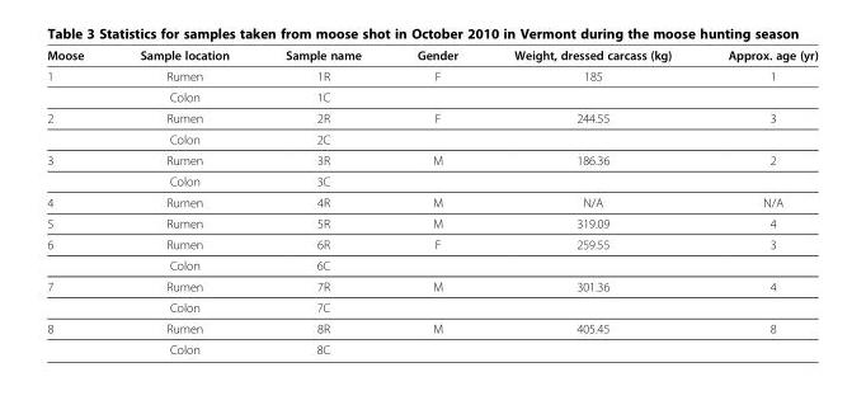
<table><thead><tr><td>Moose</td><td>Sample location</td><td>Sample name</td><td>Gender</td><td>Weight, dressed carcass (kg)</td><td>Approx. age (yr)</td></tr></thead><tbody><tr><td rowspan="2">1</td><td>Rumen</td><td>1R</td><td>F</td><td>185</td><td>1</td></tr><tr><td>Colon</td><td>1C</td><td></td><td></td><td></td></tr><tr><td rowspan="2">2</td><td>Rumen</td><td>2R</td><td>F</td><td>244.55</td><td>3</td></tr><tr><td>Colon</td><td>2C</td><td></td><td></td><td></td></tr><tr><td rowspan="2">3</td><td>Rumen</td><td>3R</td><td>M</td><td>186.36</td><td>2</td></tr><tr><td>Colon</td><td>3C</td><td></td><td></td><td></td></tr><tr><td>4</td><td>Rumen</td><td>4R</td><td>M</td><td>N/A</td><td>N/A</td></tr><tr><td>5</td><td>Rumen</td><td>5R</td><td>M</td><td>319.09</td><td>4</td></tr><tr><td rowspan="2">6</td><td>Rumen</td><td>6R</td><td>F</td><td>259.55</td><td>3</td></tr><tr><td>Colon</td><td>6C</td><td></td><td></td><td></td></tr><tr><td rowspan="2">7</td><td>Rumen</td><td>7R</td><td>M</td><td>301.36</td><td>4</td></tr><tr><td>Colon</td><td>7C</td><td></td><td></td><td></td></tr><tr><td rowspan="2">8</td><td>Rumen</td><td>8R</td><td>M</td><td>405.45</td><td>8</td></tr><tr><td>Colon</td><td>8C</td><td></td><td></td><td></td></tr></tbody></table>